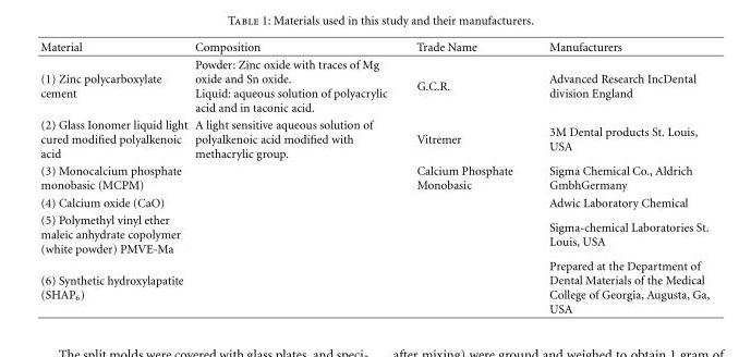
<table><thead><tr><td>Material</td><td>Composition</td><td>Trade Name</td><td>Manufacturers</td></tr></thead><tbody><tr><td>(1) Zinc polycarboxylate cement</td><td>Powder: Zinc oxide with traces of Mg oxide and Sn oxide. Liquid: aqueous solution of polyacrylic acid and in taconic acid.</td><td>G.C.R.</td><td>Advanced Research IncDental division England</td></tr><tr><td>(2) Glass Ionomer liquid light cured modified polyalkenoic acid</td><td>A light sensitive aqueous solution of polyalkenoic acid modified with methacrylic group.</td><td>Vitremer</td><td>3M Dental products St. Louis, USA</td></tr><tr><td>(3) Monocalcium phosphate monobasic (MCPM)</td><td></td><td>Calcium Phosphate Monobasic</td><td>Sigma Chemical Co., Aldrich GmbhGermany</td></tr><tr><td>(4) Calcium oxide (CaO)</td><td></td><td></td><td>Adwic Laboratory Chemical</td></tr><tr><td>(5) Polymethyl vinyl ether maleic anhydrate copolymer (white powder) PMVE-Ma</td><td></td><td></td><td>Sigma-chemical Laboratories St. Louis, USA</td></tr><tr><td>(6) Synthetic hydroxylapatite (SHAP<sub>6</sub>)</td><td></td><td></td><td>Prepared at the Department of Dental Materials of the Medical College of Georgia, Augusta, Ga, USA</td></tr></tbody></table>